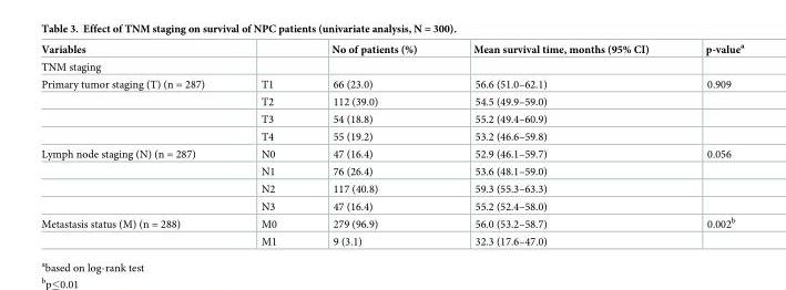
<table><thead><tr><td>Variables</td><td></td><td>No of patients (%)</td><td>Mean survival time, months (95% CI)</td><td>p-value<sup>a</sup></td></tr></thead><tbody><tr><td colspan="5">TNM staging</td></tr><tr><td rowspan="4">Primary tumor staging (T) (n = 287)</td><td>T1</td><td>66 (23.0)</td><td>56.6 (51.0–62.1)</td><td>0.909</td></tr><tr><td>T2</td><td>112 (39.0)</td><td>54.5 (49.9–59.0)</td><td></td></tr><tr><td>T3</td><td>54 (18.8)</td><td>55.2 (49.4–60.9)</td><td></td></tr><tr><td>T4</td><td>55 (19.2)</td><td>53.2 (46.6–59.8)</td><td></td></tr><tr><td rowspan="4">Lymph node staging (N) (n = 287)</td><td>N0</td><td>47 (16.4)</td><td>52.9 (46.1–59.7)</td><td>0.056</td></tr><tr><td>N1</td><td>76 (26.4)</td><td>53.6 (48.1–59.0)</td><td></td></tr><tr><td>N2</td><td>117 (40.8)</td><td>59.3 (55.3–63.3)</td><td></td></tr><tr><td>N3</td><td>47 (16.4)</td><td>55.2 (52.4–58.0)</td><td></td></tr><tr><td rowspan="2">Metastasis status (M) (n = 288)</td><td>M0</td><td>279 (96.9)</td><td>56.0 (53.2–58.7)</td><td>0.002<sup>b</sup></td></tr><tr><td>M1</td><td>9 (3.1)</td><td>32.3 (17.6–47.0)</td><td></td></tr></tbody></table>